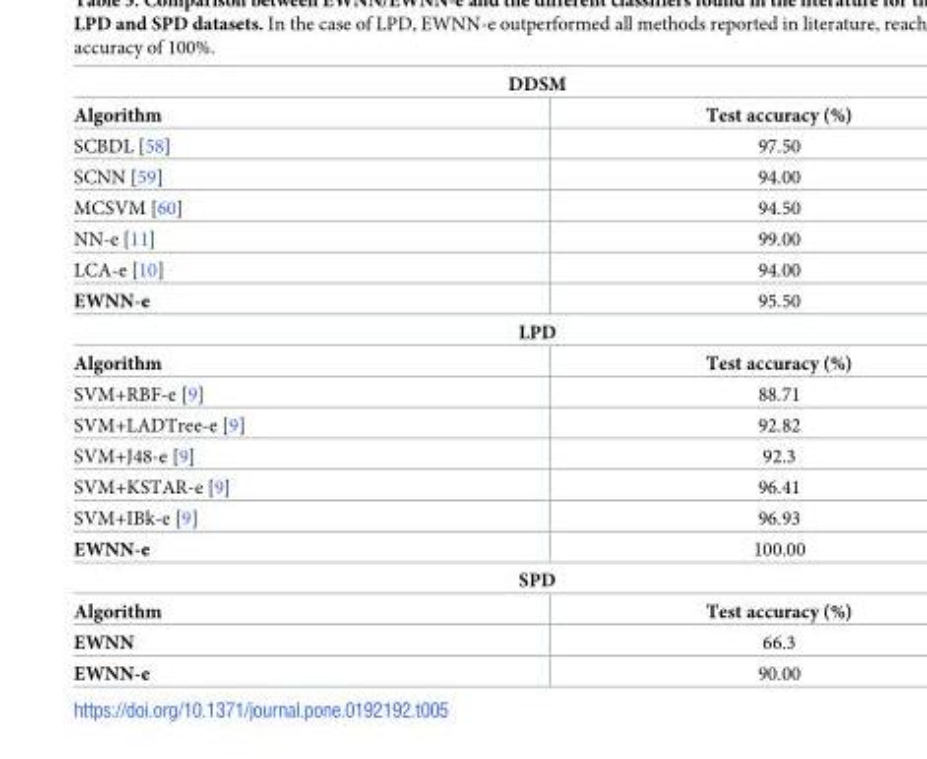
<table><tbody><tr><td colspan="2">DDSM</td></tr><tr><td>Algorithm</td><td>Test accuracy (%)</td></tr><tr><td>SCBDL [58]</td><td>97.50</td></tr><tr><td>SCNN [59]</td><td>94.00</td></tr><tr><td>MCSVM [60]</td><td>94.50</td></tr><tr><td>NN-e [11]</td><td>99.00</td></tr><tr><td>LCA-e [10]</td><td>94.00</td></tr><tr><td>EWNN-e</td><td>95.50</td></tr><tr><td colspan="2">LPD</td></tr><tr><td>Algorithm</td><td>Test accuracy (%)</td></tr><tr><td>SVM+RBF-e [9]</td><td>88.71</td></tr><tr><td>SVM+LADTree-e [9]</td><td>92.82</td></tr><tr><td>SVM+J48-e [9]</td><td>92.3</td></tr><tr><td>SVM+KSTAR-e [9]</td><td>96.41</td></tr><tr><td>SVM+IBk-e [9]</td><td>96.93</td></tr><tr><td>EWNN-e</td><td>100.00</td></tr><tr><td colspan="2">SPD</td></tr><tr><td>Algorithm</td><td>Test accuracy (%)</td></tr><tr><td>EWNN</td><td>66.3</td></tr><tr><td>EWNN-e</td><td>90.00</td></tr></tbody></table>